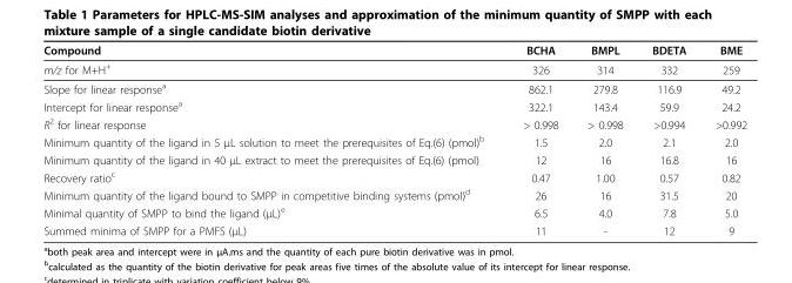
<table><thead><tr><td>Compound</td><td>BCHA</td><td>BMPL</td><td>BDETA</td><td>BME</td></tr></thead><tbody><tr><td>m/z for M+H<sup>+</sup></td><td>326</td><td>314</td><td>332</td><td>259</td></tr><tr><td>Slope for linear response<sup>a</sup></td><td>862.1</td><td>279.8</td><td>116.9</td><td>49.2</td></tr><tr><td>Intercept for linear response<sup>a</sup></td><td>322.1</td><td>143.4</td><td>59.9</td><td>24.2</td></tr><tr><td>R<sup>2</sup> for linear response</td><td>&gt; 0.998</td><td>&gt; 0.998</td><td>&gt;0.994</td><td>&gt;0.992</td></tr><tr><td>Minimum quantity of the ligand in 5 μL solution to meet the prerequisites of Eq.(6) (pmol)<sup>b</sup></td><td>1.5</td><td>2.0</td><td>2.1</td><td>2.0</td></tr><tr><td>Minimum quantity of the ligand in 40 μL extract to meet the prerequisites of Eq.(6) (pmol)</td><td>12</td><td>16</td><td>16.8</td><td>16</td></tr><tr><td>Recovery ratio<sup>c</sup></td><td>0.47</td><td>1.00</td><td>0.57</td><td>0.82</td></tr><tr><td>Minimum quantity of the ligand bound to SMPP in competitive binding systems (pmol)<sup>d</sup></td><td>26</td><td>16</td><td>31.5</td><td>20</td></tr><tr><td>Minimal quantity of SMPP to bind the ligand (μL)<sup>e</sup></td><td>6.5</td><td>4.0</td><td>7.8</td><td>5.0</td></tr><tr><td>Summed minima of SMPP for a PMFS (μL)</td><td>11</td><td>-</td><td>12</td><td>9</td></tr></tbody></table>